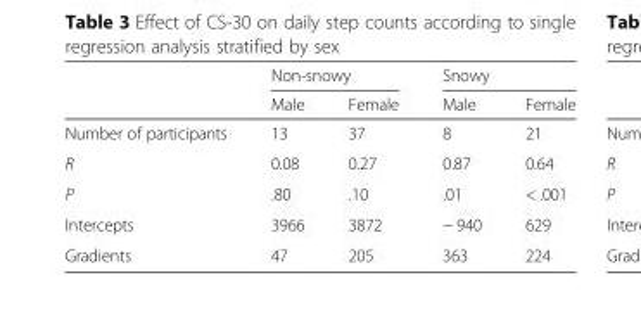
<table><thead><tr><td rowspan="2"></td><td colspan="2">Non-snowy</td><td colspan="2">Snowy</td></tr><tr><td>Male</td><td>Female</td><td>Male</td><td>Female</td></tr></thead><tbody><tr><td>Number of participants</td><td>13</td><td>37</td><td>8</td><td>21</td></tr><tr><td>R</td><td>0.08</td><td>0.27</td><td>0.87</td><td>0.64</td></tr><tr><td>P</td><td>.80</td><td>.10</td><td>.01</td><td>&lt; .001</td></tr><tr><td>Intercepts</td><td>3966</td><td>3872</td><td>− 940</td><td>629</td></tr><tr><td>Gradients</td><td>47</td><td>205</td><td>363</td><td>224</td></tr></tbody></table>